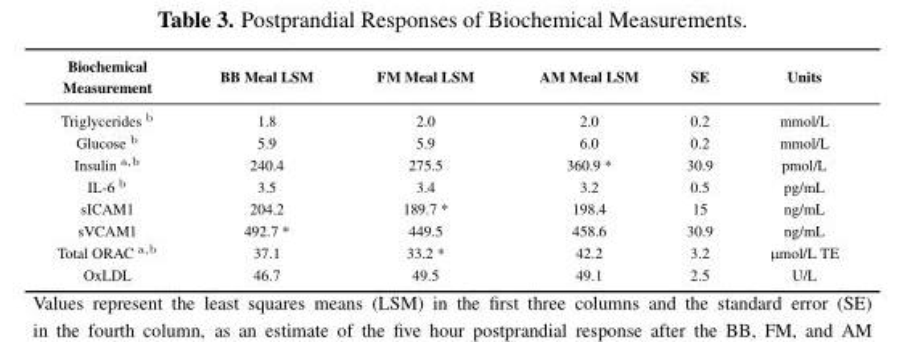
<table><thead><tr><td>Biochemical Measurement</td><td>BB Meal LSM</td><td>FM Meal LSM</td><td>AM Meal LSM</td><td>SE</td><td>Units</td></tr></thead><tbody><tr><td>Triglycerides <sup>b</sup></td><td>1.8</td><td>2.0</td><td>2.0</td><td>0.2</td><td>mmol/L</td></tr><tr><td>Glucose <sup>b</sup></td><td>5.9</td><td>5.9</td><td>6.0</td><td>0.2</td><td>mmol/L</td></tr><tr><td>Insulin <sup>a,b</sup></td><td>240.4</td><td>275.5</td><td>360.9 *</td><td>30.9</td><td>pmol/L</td></tr><tr><td>IL-6 <sup>b</sup></td><td>3.5</td><td>3.4</td><td>3.2</td><td>0.5</td><td>pg/mL</td></tr><tr><td>sICAM1</td><td>204.2</td><td>189.7 *</td><td>198.4</td><td>15</td><td>ng/mL</td></tr><tr><td>sVCAM1</td><td>492.7 *</td><td>449.5</td><td>458.6</td><td>30.9</td><td>ng/mL</td></tr><tr><td>Total ORAC <sup>a,b</sup></td><td>37.1</td><td>33.2 *</td><td>42.2</td><td>3.2</td><td>µmol/L TE</td></tr><tr><td>OxLDL</td><td>46.7</td><td>49.5</td><td>49.1</td><td>2.5</td><td>U/L</td></tr></tbody></table>